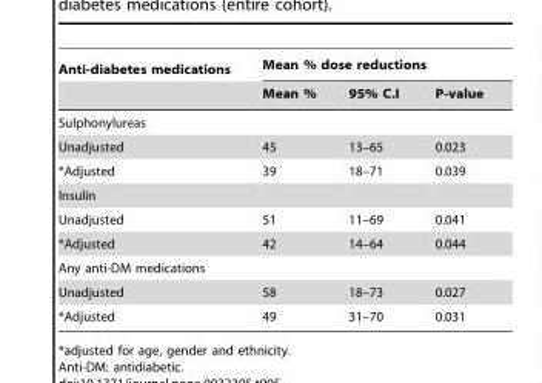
<table><thead><tr><td rowspan="2">Anti-diabetes medications</td><td colspan="3">Mean % dose reductions</td></tr><tr><td>Mean %</td><td>95% C.I</td><td>P-value</td></tr></thead><tbody><tr><td colspan="4">Sulphonylureas</td></tr><tr><td>Unadjusted</td><td>45</td><td>13–65</td><td>0.023</td></tr><tr><td>*Adjusted</td><td>39</td><td>18–71</td><td>0.039</td></tr><tr><td colspan="4">Insulin</td></tr><tr><td>Unadjusted</td><td>51</td><td>11–69</td><td>0.041</td></tr><tr><td>*Adjusted</td><td>42</td><td>14–64</td><td>0.044</td></tr><tr><td colspan="4">Any anti-DM medications</td></tr><tr><td>Unadjusted</td><td>58</td><td>18–73</td><td>0.027</td></tr><tr><td>*Adjusted</td><td>49</td><td>31–70</td><td>0.031</td></tr></tbody></table>